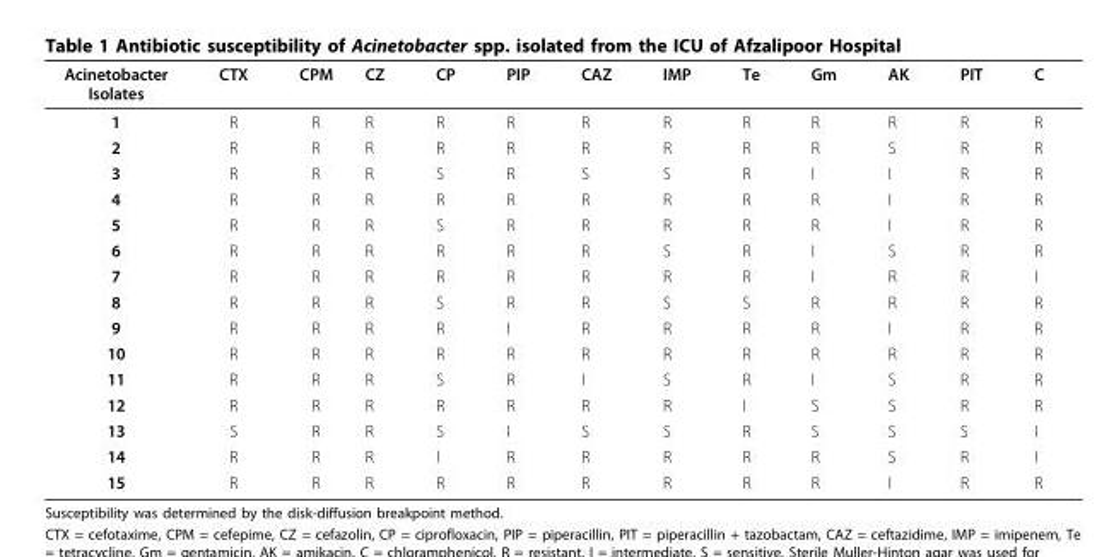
<table><thead><tr><td>Acinetobacter Isolates</td><td>CTX</td><td>CPM</td><td>CZ</td><td>CP</td><td>PIP</td><td>CAZ</td><td>IMP</td><td>Te</td><td>Gm</td><td>AK</td><td>PIT</td><td>C</td></tr></thead><tbody><tr><td>1</td><td>R</td><td>R</td><td>R</td><td>R</td><td>R</td><td>R</td><td>R</td><td>R</td><td>R</td><td>R</td><td>R</td><td>R</td></tr><tr><td>2</td><td>R</td><td>R</td><td>R</td><td>R</td><td>R</td><td>R</td><td>R</td><td>R</td><td>R</td><td>S</td><td>R</td><td>R</td></tr><tr><td>3</td><td>R</td><td>R</td><td>R</td><td>S</td><td>R</td><td>S</td><td>S</td><td>R</td><td>I</td><td>I</td><td>R</td><td>R</td></tr><tr><td>4</td><td>R</td><td>R</td><td>R</td><td>R</td><td>R</td><td>R</td><td>R</td><td>R</td><td>R</td><td>I</td><td>R</td><td>R</td></tr><tr><td>5</td><td>R</td><td>R</td><td>R</td><td>S</td><td>R</td><td>R</td><td>R</td><td>R</td><td>R</td><td>I</td><td>R</td><td>R</td></tr><tr><td>6</td><td>R</td><td>R</td><td>R</td><td>R</td><td>R</td><td>R</td><td>S</td><td>R</td><td>I</td><td>S</td><td>R</td><td>R</td></tr><tr><td>7</td><td>R</td><td>R</td><td>R</td><td>R</td><td>R</td><td>R</td><td>R</td><td>R</td><td>I</td><td>R</td><td>R</td><td>I</td></tr><tr><td>8</td><td>R</td><td>R</td><td>R</td><td>S</td><td>R</td><td>R</td><td>S</td><td>S</td><td>R</td><td>R</td><td>R</td><td>R</td></tr><tr><td>9</td><td>R</td><td>R</td><td>R</td><td>R</td><td>I</td><td>R</td><td>R</td><td>R</td><td>R</td><td>I</td><td>R</td><td>R</td></tr><tr><td>10</td><td>R</td><td>R</td><td>R</td><td>R</td><td>R</td><td>R</td><td>R</td><td>R</td><td>R</td><td>R</td><td>R</td><td>R</td></tr><tr><td>11</td><td>R</td><td>R</td><td>R</td><td>S</td><td>R</td><td>I</td><td>S</td><td>R</td><td>I</td><td>S</td><td>R</td><td>R</td></tr><tr><td>12</td><td>R</td><td>R</td><td>R</td><td>R</td><td>R</td><td>R</td><td>R</td><td>I</td><td>S</td><td>S</td><td>R</td><td>R</td></tr><tr><td>13</td><td>S</td><td>R</td><td>R</td><td>S</td><td>I</td><td>S</td><td>S</td><td>R</td><td>S</td><td>S</td><td>S</td><td>I</td></tr><tr><td>14</td><td>R</td><td>R</td><td>R</td><td>I</td><td>R</td><td>R</td><td>R</td><td>R</td><td>R</td><td>S</td><td>R</td><td>I</td></tr><tr><td>15</td><td>R</td><td>R</td><td>R</td><td>R</td><td>R</td><td>R</td><td>R</td><td>R</td><td>R</td><td>I</td><td>R</td><td>R</td></tr></tbody></table>